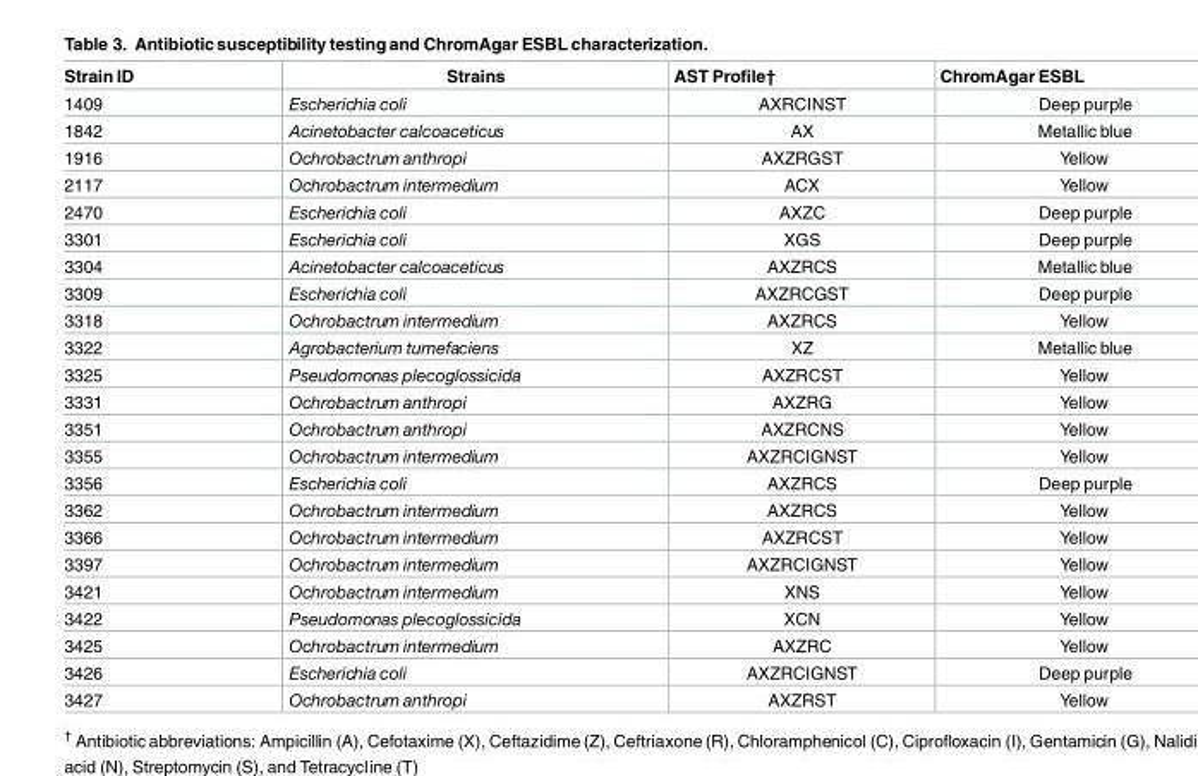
<table><thead><tr><td>Strain ID</td><td>Strains</td><td>AST Profile†</td><td>ChromAgar ESBL</td></tr></thead><tbody><tr><td>1409</td><td>Escherichia coli</td><td>AXRCINST</td><td>Deep purple</td></tr><tr><td>1842</td><td>Acinetobacter calcoaceticus</td><td>AX</td><td>Metallic blue</td></tr><tr><td>1916</td><td>Ochrobactrum anthropi</td><td>AXZRGST</td><td>Yellow</td></tr><tr><td>2117</td><td>Ochrobactrum intermedium</td><td>ACX</td><td>Yellow</td></tr><tr><td>2470</td><td>Escherichia coli</td><td>AXZC</td><td>Deep purple</td></tr><tr><td>3301</td><td>Escherichia coli</td><td>XGS</td><td>Deep purple</td></tr><tr><td>3304</td><td>Acinetobacter calcoaceticus</td><td>AXZRCS</td><td>Metallic blue</td></tr><tr><td>3309</td><td>Escherichia coli</td><td>AXZRCGST</td><td>Deep purple</td></tr><tr><td>3318</td><td>Ochrobactrum intermedium</td><td>AXZRCS</td><td>Yellow</td></tr><tr><td>3322</td><td>Agrobacterium tumefaciens</td><td>XZ</td><td>Metallic blue</td></tr><tr><td>3325</td><td>Pseudomonas plecoglossicida</td><td>AXZRCST</td><td>Yellow</td></tr><tr><td>3331</td><td>Ochrobactrum anthropi</td><td>AXZRG</td><td>Yellow</td></tr><tr><td>3351</td><td>Ochrobactrum anthropi</td><td>AXZRCNS</td><td>Yellow</td></tr><tr><td>3355</td><td>Ochrobactrum intermedium</td><td>AXZRCIGNST</td><td>Yellow</td></tr><tr><td>3356</td><td>Escherichia coli</td><td>AXZRCS</td><td>Deep purple</td></tr><tr><td>3362</td><td>Ochrobactrum intermedium</td><td>AXZRCS</td><td>Yellow</td></tr><tr><td>3366</td><td>Ochrobactrum intermedium</td><td>AXZRCST</td><td>Yellow</td></tr><tr><td>3397</td><td>Ochrobactrum intermedium</td><td>AXZRCIGNST</td><td>Yellow</td></tr><tr><td>3421</td><td>Ochrobactrum intermedium</td><td>XNS</td><td>Yellow</td></tr><tr><td>3422</td><td>Pseudomonas plecoglossicida</td><td>XCN</td><td>Yellow</td></tr><tr><td>3425</td><td>Ochrobactrum intermedium</td><td>AXZRC</td><td>Yellow</td></tr><tr><td>3426</td><td>Escherichia coli</td><td>AXZRCIGNST</td><td>Deep purple</td></tr><tr><td>3427</td><td>Ochrobactrum anthropi</td><td>AXZRST</td><td>Yellow</td></tr></tbody></table>